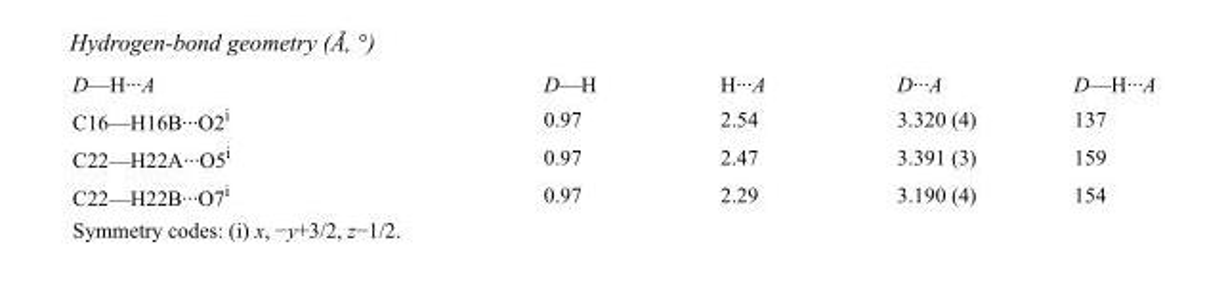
<table><tbody><tr><td>D—H···A</td><td>D—H</td><td>H···A</td><td>D···A</td><td>D—H···A</td></tr><tr><td>C16—H16B···O2<sup>i</sup></td><td>0.97</td><td>2.54</td><td>3.320 (4)</td><td>137</td></tr><tr><td>C22—H22A···O5<sup>i</sup></td><td>0.97</td><td>2.47</td><td>3.391 (3)</td><td>159</td></tr><tr><td>C22—H22B···O7<sup>i</sup></td><td>0.97</td><td>2.29</td><td>3.190 (4)</td><td>154</td></tr></tbody></table>